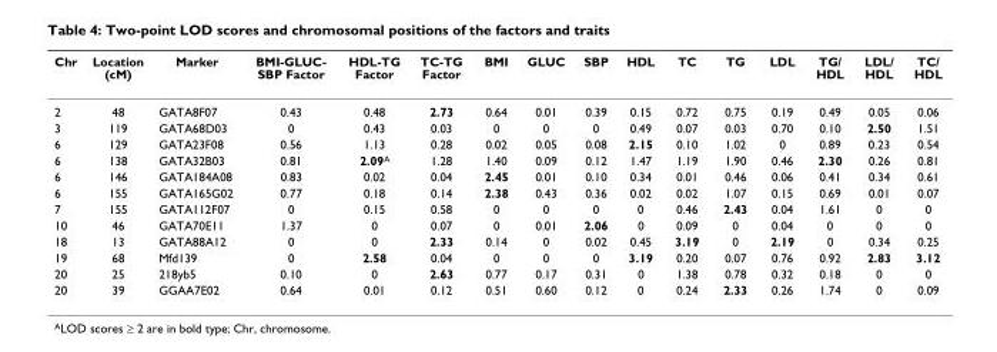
<table><thead><tr><td>Chr</td><td>Location (cM)</td><td>Marker</td><td>BMI-GLUC- SBP Factor</td><td>HDL-TG Factor</td><td>TC-TG Factor</td><td>BMI</td><td>GLUC</td><td>SBP</td><td>HDL</td><td>TC</td><td>TG</td><td>LDL</td><td>TG/ HDL</td><td>LDL/ HDL</td><td>TC/ HDL</td></tr></thead><tbody><tr><td>2</td><td>48</td><td>GATA8F07</td><td>0.43</td><td>0.48</td><td>2.73</td><td>0.64</td><td>0.01</td><td>0.39</td><td>0.15</td><td>0.72</td><td>0.75</td><td>0.19</td><td>0.49</td><td>0.05</td><td>0.06</td></tr><tr><td>3</td><td>119</td><td>GATA68D03</td><td>0</td><td>0.43</td><td>0.03</td><td>0</td><td>0</td><td>0</td><td>0.49</td><td>0.07</td><td>0.03</td><td>0.70</td><td>0.10</td><td>2.50</td><td>1.51</td></tr><tr><td>6</td><td>129</td><td>GATA23F08</td><td>0.56</td><td>1.13</td><td>0.28</td><td>0.02</td><td>0.05</td><td>0.08</td><td>2.15</td><td>0.10</td><td>1.02</td><td>0</td><td>0.89</td><td>0.23</td><td>0.54</td></tr><tr><td>6</td><td>138</td><td>GATA32B03</td><td>0.81</td><td>2.09A</td><td>1.28</td><td>1.40</td><td>0.09</td><td>0.12</td><td>1.47</td><td>1.19</td><td>1.90</td><td>0.46</td><td>2.30</td><td>0.26</td><td>0.81</td></tr><tr><td>6</td><td>146</td><td>GATA184A08</td><td>0.83</td><td>0.02</td><td>0.04</td><td>2.45</td><td>0.01</td><td>0.10</td><td>0.34</td><td>0.01</td><td>0.46</td><td>0.06</td><td>0.41</td><td>0.34</td><td>0.61</td></tr><tr><td>6</td><td>155</td><td>GATA165G02</td><td>0.77</td><td>0.18</td><td>0.14</td><td>2.38</td><td>0.43</td><td>0.36</td><td>0.02</td><td>0.02</td><td>1.07</td><td>0.15</td><td>0.69</td><td>0.01</td><td>0.07</td></tr><tr><td>7</td><td>155</td><td>GATA112F07</td><td>0</td><td>0.15</td><td>0.58</td><td>0</td><td>0</td><td>0</td><td>0</td><td>0.46</td><td>2.43</td><td>0.04</td><td>1.61</td><td>0</td><td>0</td></tr><tr><td>10</td><td>46</td><td>GATA70E11</td><td>1.37</td><td>0</td><td>0.07</td><td>0</td><td>0.01</td><td>2.06</td><td>0</td><td>0.09</td><td>0</td><td>0.04</td><td>0</td><td>0</td><td>0</td></tr><tr><td>18</td><td>13</td><td>GATA88A12</td><td>0</td><td>0</td><td>2.33</td><td>0.14</td><td>0</td><td>0.02</td><td>0.45</td><td>3.19</td><td>0</td><td>2.19</td><td>0</td><td>0.34</td><td>0.25</td></tr><tr><td>19</td><td>68</td><td>Mfd139</td><td>0</td><td>2.58</td><td>0.04</td><td>0</td><td>0</td><td>0</td><td>3.19</td><td>0.20</td><td>0.07</td><td>0.76</td><td>0.92</td><td>2.83</td><td>3.12</td></tr><tr><td>20</td><td>25</td><td>218yb5</td><td>0.10</td><td>0</td><td>2.63</td><td>0.77</td><td>0.17</td><td>0.31</td><td>0</td><td>1.38</td><td>0.78</td><td>0.32</td><td>0.18</td><td>0</td><td>0</td></tr><tr><td>20</td><td>39</td><td>GGAA7E02</td><td>0.64</td><td>0.01</td><td>0.12</td><td>0.51</td><td>0.60</td><td>0.12</td><td>0</td><td>0.24</td><td>2.33</td><td>0.26</td><td>1.74</td><td>0</td><td>0.09</td></tr></tbody></table>